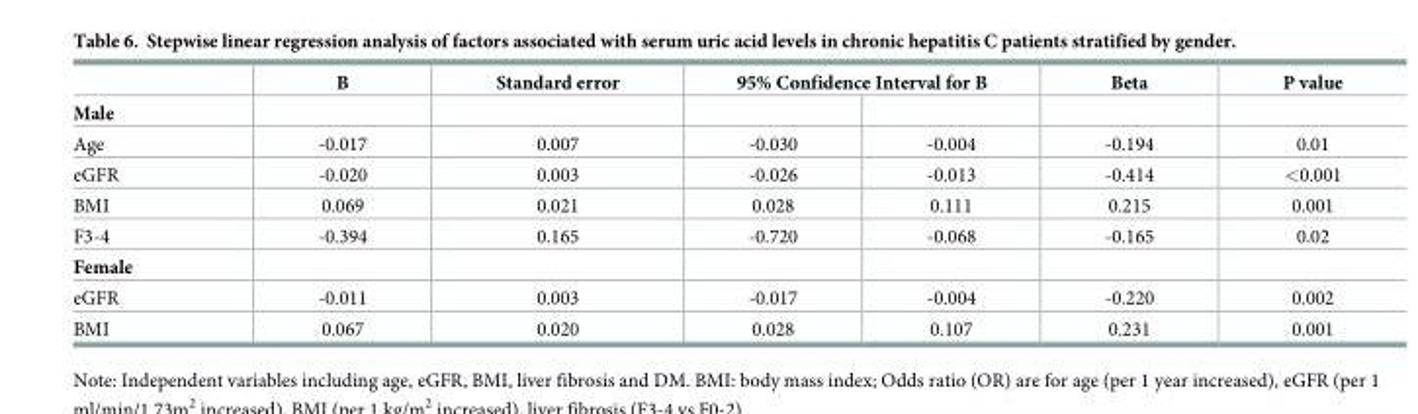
<table><thead><tr><td rowspan="2">Male</td><td rowspan="2">B</td><td rowspan="2">Standard error</td><td colspan="2">95% Confidence Interval for B</td><td rowspan="2">Beta</td><td rowspan="2">P value</td></tr><tr><td></td><td></td></tr></thead><tbody><tr><td>Age</td><td>-0.017</td><td>0.007</td><td>-0.030</td><td>-0.004</td><td>-0.194</td><td>0.01</td></tr><tr><td>eGFR</td><td>-0.020</td><td>0.003</td><td>-0.026</td><td>-0.013</td><td>-0.414</td><td>&lt;0.001</td></tr><tr><td>BMI</td><td>0.069</td><td>0.021</td><td>0.028</td><td>0.111</td><td>0.215</td><td>0.001</td></tr><tr><td>F3-4</td><td>-0.394</td><td>0.165</td><td>-0.720</td><td>-0.068</td><td>-0.165</td><td>0.02</td></tr><tr><td colspan="7">Female</td></tr><tr><td>eGFR</td><td>-0.011</td><td>0.003</td><td>-0.017</td><td>-0.004</td><td>-0.220</td><td>0.002</td></tr><tr><td>BMI</td><td>0.067</td><td>0.020</td><td>0.028</td><td>0.107</td><td>0.231</td><td>0.001</td></tr></tbody></table>